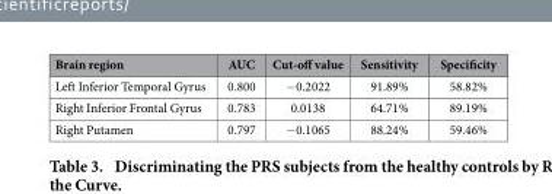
<table><thead><tr><td>Brain region</td><td>AUC</td><td>Cut-off value</td><td>Sensitivity</td><td>Specificity</td></tr></thead><tbody><tr><td>Left Inferior Temporal Gyrus</td><td>0.800</td><td>− 0.2022</td><td>91.89%</td><td>58.82%</td></tr><tr><td>Right Inferior Frontal Gyrus</td><td>0.783</td><td>0.0138</td><td>64.71%</td><td>89.19%</td></tr><tr><td>Right Putamen</td><td>0.797</td><td>− 0.1065</td><td>88.24%</td><td>59.46%</td></tr></tbody></table>